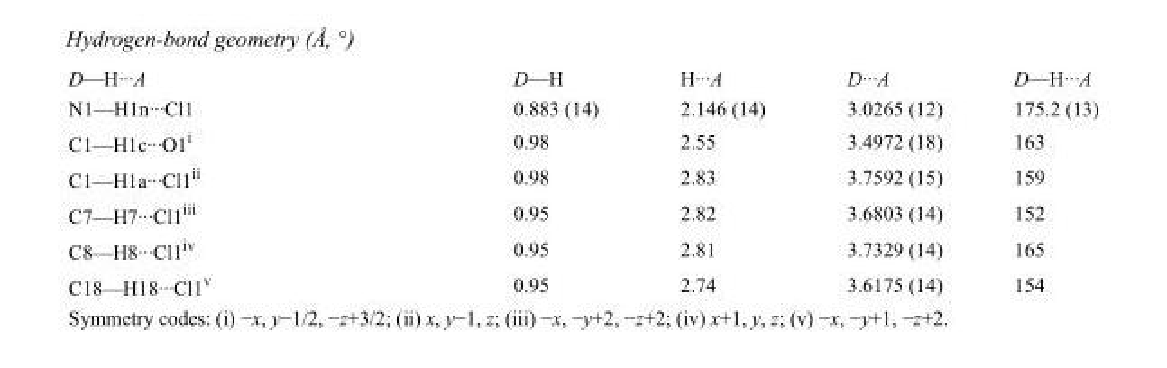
<table><tbody><tr><td>D—H···A</td><td>D—H</td><td>H···A</td><td>D···A</td><td>D—H···A</td></tr><tr><td>N1—H1n···Cl1</td><td>0.883 (14)</td><td>2.146 (14)</td><td>3.0265 (12)</td><td>175.2 (13)</td></tr><tr><td>C1—H1c···O1<sup>i</sup></td><td>0.98</td><td>2.55</td><td>3.4972 (18)</td><td>163</td></tr><tr><td>C1—H1a···Cl1<sup>ii</sup></td><td>0.98</td><td>2.83</td><td>3.7592 (15)</td><td>159</td></tr><tr><td>C7—H7···Cl1<sup>iii</sup></td><td>0.95</td><td>2.82</td><td>3.6803 (14)</td><td>152</td></tr><tr><td>C8—H8···Cl1<sup>iv</sup></td><td>0.95</td><td>2.81</td><td>3.7329 (14)</td><td>165</td></tr><tr><td>C18—H18···Cl1<sup>v</sup></td><td>0.95</td><td>2.74</td><td>3.6175 (14)</td><td>154</td></tr></tbody></table>